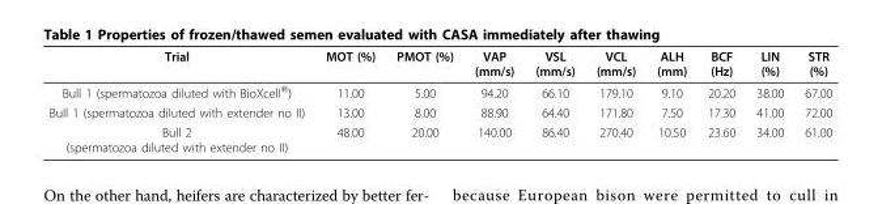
<table><thead><tr><td>Trial</td><td>MOT (%)</td><td>PMOT (%)</td><td>VAP (mm/s)</td><td>VSL (mm/s)</td><td>VCL (mm/s)</td><td>ALH (mm)</td><td>BCF (Hz)</td><td>LIN (%)</td><td>STR (%)</td></tr></thead><tbody><tr><td>Bull 1 (spermatozoa diluted with BioXcell<sup>®</sup>)</td><td>11.00</td><td>5.00</td><td>94.20</td><td>66.10</td><td>179.10</td><td>9.10</td><td>20.20</td><td>38.00</td><td>67.00</td></tr><tr><td>Bull 1 (spermatozoa diluted with extender no II)</td><td>13.00</td><td>8.00</td><td>88.90</td><td>64.40</td><td>171.80</td><td>7.50</td><td>17.30</td><td>41.00</td><td>72.00</td></tr><tr><td>Bull 2 (spermatozoa diluted with extender no II)</td><td>48.00</td><td>20.00</td><td>140.00</td><td>86.40</td><td>270.40</td><td>10.50</td><td>23.60</td><td>34.00</td><td>61.00</td></tr></tbody></table>